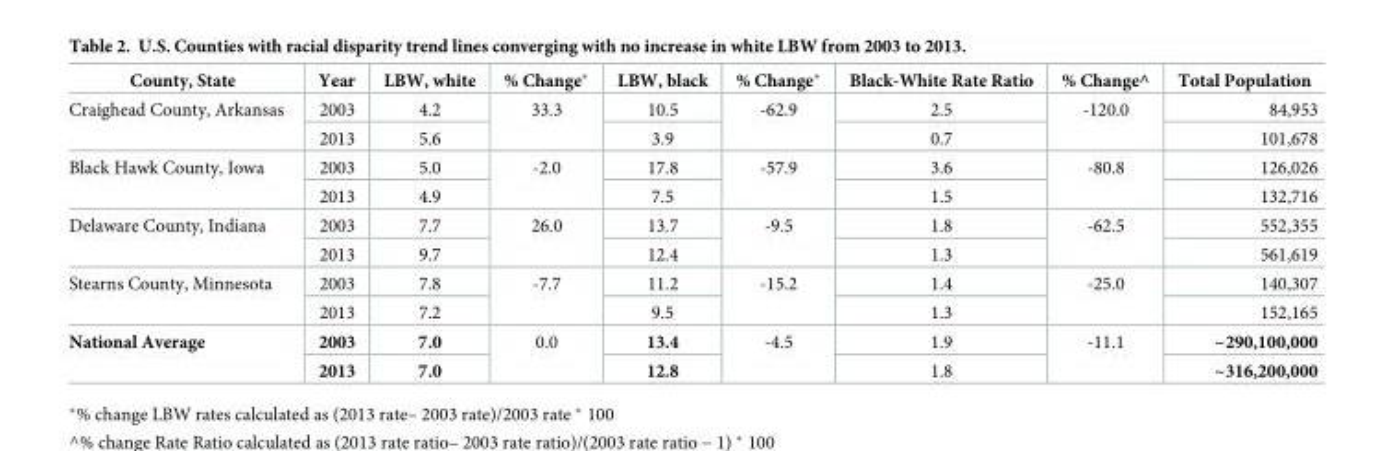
<table><thead><tr><td>County, State</td><td>Year</td><td>LBW, white</td><td>% Change*</td><td>LBW, black</td><td>% Change*</td><td>Black-White Rate Ratio</td><td>% Change^</td><td>Total Population</td></tr></thead><tbody><tr><td rowspan="2">Craighead County, Arkansas</td><td>2003</td><td>4.2</td><td rowspan="2">33.3</td><td>10.5</td><td rowspan="2">-62.9</td><td>2.5</td><td rowspan="2">-120.0</td><td>84,953</td></tr><tr><td>2013</td><td>5.6</td><td>3.9</td><td>0.7</td><td>101,678</td></tr><tr><td rowspan="2">Black Hawk County, Iowa</td><td>2003</td><td>5.0</td><td rowspan="2">-2.0</td><td>17.8</td><td rowspan="2">-57.9</td><td>3.6</td><td rowspan="2">-80.8</td><td>126,026</td></tr><tr><td>2013</td><td>4.9</td><td>7.5</td><td>1.5</td><td>132,716</td></tr><tr><td rowspan="2">Delaware County, Indiana</td><td>2003</td><td>7.7</td><td rowspan="2">26.0</td><td>13.7</td><td rowspan="2">-9.5</td><td>1.8</td><td rowspan="2">-62.5</td><td>552,355</td></tr><tr><td>2013</td><td>9.7</td><td>12.4</td><td>1.3</td><td>561,619</td></tr><tr><td rowspan="2">Stearns County, Minnesota</td><td>2003</td><td>7.8</td><td rowspan="2">-7.7</td><td>11.2</td><td rowspan="2">-15.2</td><td>1.4</td><td rowspan="2">-25.0</td><td>140,307</td></tr><tr><td>2013</td><td>7.2</td><td>9.5</td><td>1.3</td><td>152,165</td></tr><tr><td rowspan="2">National Average</td><td>2003</td><td>7.0</td><td rowspan="2">0.0</td><td>13.4</td><td rowspan="2">-4.5</td><td>1.9</td><td rowspan="2">-11.1</td><td>~290,100,000</td></tr><tr><td>2013</td><td>7.0</td><td>12.8</td><td>1.8</td><td>~316,200,000</td></tr></tbody></table>